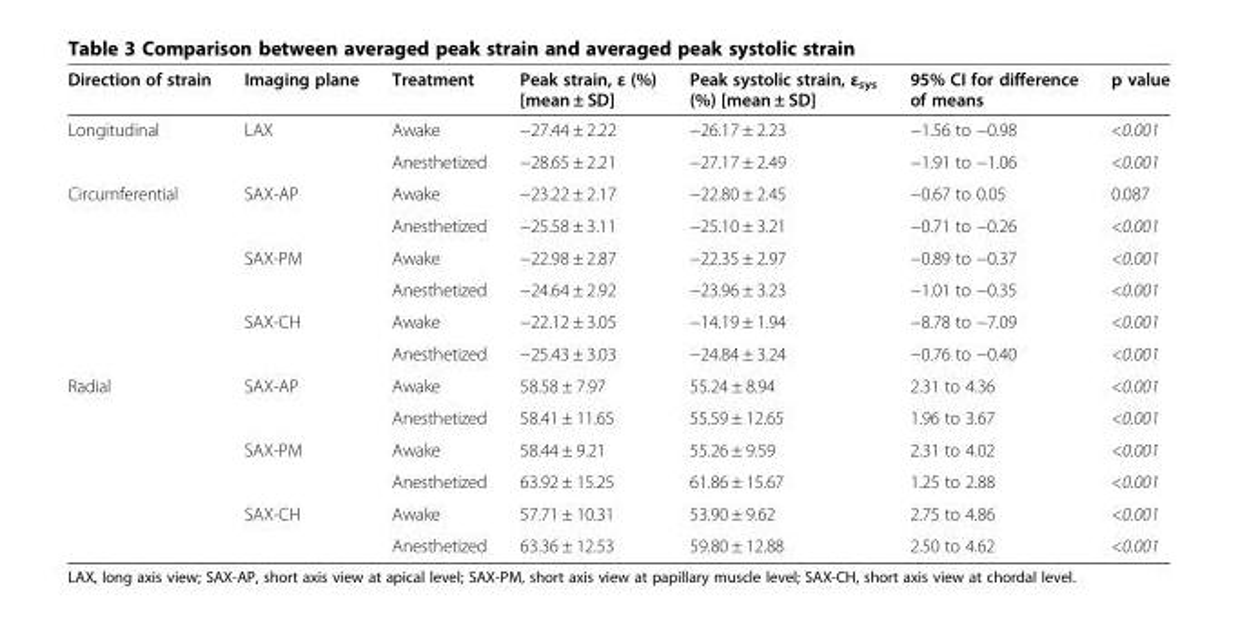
<table><thead><tr><td>Direction of strain</td><td>Imaging plane</td><td>Treatment</td><td>Peak strain, ε (%) [mean ± SD]</td><td>Peak systolic strain, ε<sub>sys</sub> (%) [mean ± SD]</td><td>95% CI for difference of means</td><td>p value</td></tr></thead><tbody><tr><td rowspan="2">Longitudinal</td><td>LAX</td><td>Awake</td><td>−27.44 ± 2.22</td><td>−26.17 ± 2.23</td><td>−1.56 to −0.98</td><td>&lt;0.001</td></tr><tr><td></td><td>Anesthetized</td><td>−28.65 ± 2.21</td><td>−27.17 ± 2.49</td><td>−1.91 to −1.06</td><td>&lt;0.001</td></tr><tr><td rowspan="6">Circumferential</td><td>SAX-AP</td><td>Awake</td><td>−23.22 ± 2.17</td><td>−22.80 ± 2.45</td><td>−0.67 to 0.05</td><td>0.087</td></tr><tr><td></td><td>Anesthetized</td><td>−25.58 ± 3.11</td><td>−25.10 ± 3.21</td><td>−0.71 to −0.26</td><td>&lt;0.001</td></tr><tr><td>SAX-PM</td><td>Awake</td><td>−22.98 ± 2.87</td><td>−22.35 ± 2.97</td><td>−0.89 to −0.37</td><td>&lt;0.001</td></tr><tr><td></td><td>Anesthetized</td><td>−24.64 ± 2.92</td><td>−23.96 ± 3.23</td><td>−1.01 to −0.35</td><td>&lt;0.001</td></tr><tr><td>SAX-CH</td><td>Awake</td><td>−22.12 ± 3.05</td><td>−14.19 ± 1.94</td><td>−8.78 to −7.09</td><td>&lt;0.001</td></tr><tr><td></td><td>Anesthetized</td><td>−25.43 ± 3.03</td><td>−24.84 ± 3.24</td><td>−0.76 to −0.40</td><td>&lt;0.001</td></tr><tr><td rowspan="6">Radial</td><td>SAX-AP</td><td>Awake</td><td>58.58 ± 7.97</td><td>55.24 ± 8.94</td><td>2.31 to 4.36</td><td>&lt;0.001</td></tr><tr><td></td><td>Anesthetized</td><td>58.41 ± 11.65</td><td>55.59 ± 12.65</td><td>1.96 to 3.67</td><td>&lt;0.001</td></tr><tr><td>SAX-PM</td><td>Awake</td><td>58.44 ± 9.21</td><td>55.26 ± 9.59</td><td>2.31 to 4.02</td><td>&lt;0.001</td></tr><tr><td></td><td>Anesthetized</td><td>63.92 ± 15.25</td><td>61.86 ± 15.67</td><td>1.25 to 2.88</td><td>&lt;0.001</td></tr><tr><td>SAX-CH</td><td>Awake</td><td>57.71 ± 10.31</td><td>53.90 ± 9.62</td><td>2.75 to 4.86</td><td>&lt;0.001</td></tr><tr><td></td><td>Anesthetized</td><td>63.36 ± 12.53</td><td>59.80 ± 12.88</td><td>2.50 to 4.62</td><td>&lt;0.001</td></tr></tbody></table>